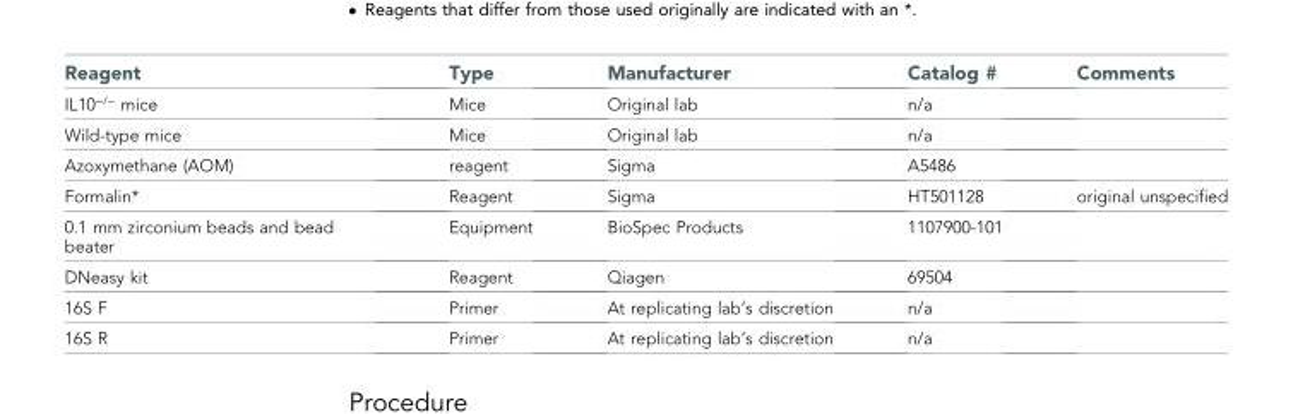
<table><thead><tr><td>Reagent</td><td>Type</td><td>Manufacturer</td><td>Catalog #</td><td>Comments</td></tr></thead><tbody><tr><td>IL10<sup>−/−</sup> mice</td><td>Mice</td><td>Original lab</td><td>n/a</td><td></td></tr><tr><td>Wild-type mice</td><td>Mice</td><td>Original lab</td><td>n/a</td><td></td></tr><tr><td>Azoxymethane (AOM)</td><td>reagent</td><td>Sigma</td><td>A5486</td><td></td></tr><tr><td>Formalin*</td><td>Reagent</td><td>Sigma</td><td>HT501128</td><td>original unspecified</td></tr><tr><td>0.1 mm zirconium beads and bead beater</td><td>Equipment</td><td>BioSpec Products</td><td>1107900-101</td><td></td></tr><tr><td>DNeasy kit</td><td>Reagent</td><td>Qiagen</td><td>69504</td><td></td></tr><tr><td>16S F</td><td>Primer</td><td>At replicating lab’s discretion</td><td>n/a</td><td></td></tr><tr><td>16S R</td><td>Primer</td><td>At replicating lab’s discretion</td><td>n/a</td><td></td></tr></tbody></table>